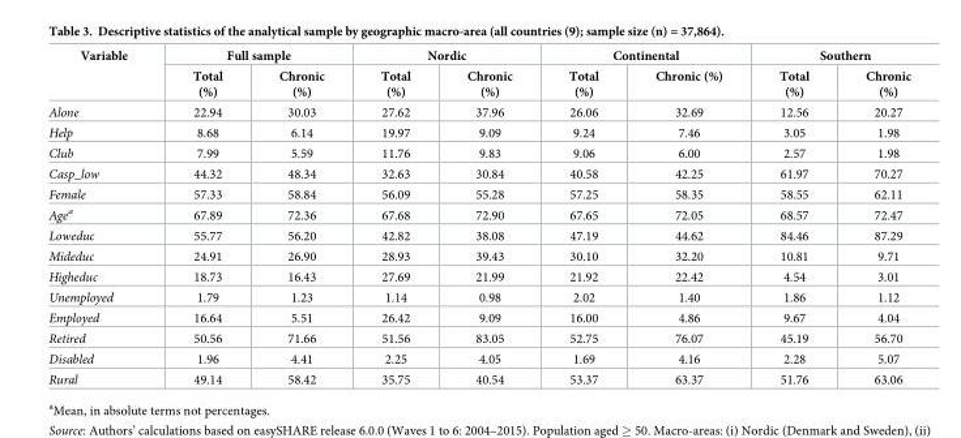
<table><thead><tr><td rowspan="2">Variable</td><td colspan="2">Full sample</td><td colspan="2">Nordic</td><td colspan="2">Continental</td><td colspan="2">Southern</td></tr><tr><td>Total (%)</td><td>Chronic (%)</td><td>Total (%)</td><td>Chronic (%)</td><td>Total (%)</td><td>Chronic (%)</td><td>Total (%)</td><td>Chronic (%)</td></tr></thead><tbody><tr><td>Alone</td><td>22.94</td><td>30.03</td><td>27.62</td><td>37.96</td><td>26.06</td><td>32.69</td><td>12.56</td><td>20.27</td></tr><tr><td>Help</td><td>8.68</td><td>6.14</td><td>19.97</td><td>9.09</td><td>9.24</td><td>7.46</td><td>3.05</td><td>1.98</td></tr><tr><td>Club</td><td>7.99</td><td>5.59</td><td>11.76</td><td>9.83</td><td>9.06</td><td>6.00</td><td>2.57</td><td>1.98</td></tr><tr><td>Casp_low</td><td>44.32</td><td>48.34</td><td>32.63</td><td>30.84</td><td>40.58</td><td>42.25</td><td>61.97</td><td>70.27</td></tr><tr><td>Female</td><td>57.33</td><td>58.84</td><td>56.09</td><td>55.28</td><td>57.25</td><td>58.35</td><td>58.55</td><td>62.11</td></tr><tr><td>Age<sup>a</sup></td><td>67.89</td><td>72.36</td><td>67.68</td><td>72.90</td><td>67.65</td><td>72.05</td><td>68.57</td><td>72.47</td></tr><tr><td>Loweduc</td><td>55.77</td><td>56.20</td><td>42.82</td><td>38.08</td><td>47.19</td><td>44.62</td><td>84.46</td><td>87.29</td></tr><tr><td>Mideduc</td><td>24.91</td><td>26.90</td><td>28.93</td><td>39.43</td><td>30.10</td><td>32.20</td><td>10.81</td><td>9.71</td></tr><tr><td>Higheduc</td><td>18.73</td><td>16.43</td><td>27.69</td><td>21.99</td><td>21.92</td><td>22.42</td><td>4.54</td><td>3.01</td></tr><tr><td>Unemployed</td><td>1.79</td><td>1.23</td><td>1.14</td><td>0.98</td><td>2.02</td><td>1.40</td><td>1.86</td><td>1.12</td></tr><tr><td>Employed</td><td>16.64</td><td>5.51</td><td>26.42</td><td>9.09</td><td>16.00</td><td>4.86</td><td>9.67</td><td>4.04</td></tr><tr><td>Retired</td><td>50.56</td><td>71.66</td><td>51.56</td><td>83.05</td><td>52.75</td><td>76.07</td><td>45.19</td><td>56.70</td></tr><tr><td>Disabled</td><td>1.96</td><td>4.41</td><td>2.25</td><td>4.05</td><td>1.69</td><td>4.16</td><td>2.28</td><td>5.07</td></tr><tr><td>Rural</td><td>49.14</td><td>58.42</td><td>35.75</td><td>40.54</td><td>53.37</td><td>63.37</td><td>51.76</td><td>63.06</td></tr></tbody></table>